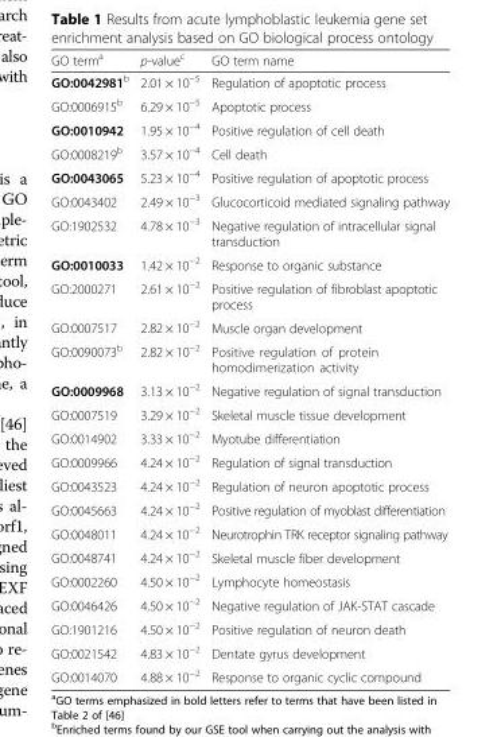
<table><thead><tr><td>GO term<sup>a</sup></td><td>p-value<sup>c</sup></td><td>GO term name</td></tr></thead><tbody><tr><td>GO:0042981<sup>b</sup></td><td>2.01 × 10<sup>−5</sup></td><td>Regulation of apoptotic process</td></tr><tr><td>GO:0006915<sup>b</sup></td><td>6.29 × 10<sup>−5</sup></td><td>Apoptotic process</td></tr><tr><td>GO:0010942</td><td>1.95 × 10<sup>−4</sup></td><td>Positive regulation of cell death</td></tr><tr><td>GO:0008219<sup>b</sup></td><td>3.57 × 10<sup>−4</sup></td><td>Cell death</td></tr><tr><td>GO:0043065</td><td>5.23 × 10<sup>−4</sup></td><td>Positive regulation of apoptotic process</td></tr><tr><td>GO:0043402</td><td>2.49 × 10<sup>−3</sup></td><td>Glucocorticoid mediated signaling pathway</td></tr><tr><td>GO:1902532</td><td>4.78 × 10<sup>−3</sup></td><td>Negative regulation of intracellular signal transduction</td></tr><tr><td>GO:0010033</td><td>1.42 × 10<sup>−2</sup></td><td>Response to organic substance</td></tr><tr><td>GO:2000271</td><td>2.61 × 10<sup>−2</sup></td><td>Positive regulation of fibroblast apoptotic process</td></tr><tr><td>GO:0007517</td><td>2.82 × 10<sup>−2</sup></td><td>Muscle organ development</td></tr><tr><td>GO:0090073<sup>b</sup></td><td>2.82 × 10<sup>−2</sup></td><td>Positive regulation of protein homodimerization activity</td></tr><tr><td>GO:0009968</td><td>3.13 × 10<sup>−2</sup></td><td>Negative regulation of signal transduction</td></tr><tr><td>GO:0007519</td><td>3.29 × 10<sup>−2</sup></td><td>Skeletal muscle tissue development</td></tr><tr><td>GO:0014902</td><td>3.33 × 10<sup>−2</sup></td><td>Myotube differentiation</td></tr><tr><td>GO:0009966</td><td>4.24 × 10<sup>−2</sup></td><td>Regulation of signal transduction</td></tr><tr><td>GO:0043523</td><td>4.24 × 10<sup>−2</sup></td><td>Regulation of neuron apoptotic process</td></tr><tr><td>GO:0045663</td><td>4.24 × 10<sup>−2</sup></td><td>Positive regulation of myoblast differentiation</td></tr><tr><td>GO:0048011</td><td>4.24 × 10<sup>−2</sup></td><td>Neurotrophin TRK receptor signaling pathway</td></tr><tr><td>GO:0048741</td><td>4.24 × 10<sup>−2</sup></td><td>Skeletal muscle fiber development</td></tr><tr><td>GO:0002260</td><td>4.50 × 10<sup>−2</sup></td><td>Lymphocyte homeostasis</td></tr><tr><td>GO:0046426</td><td>4.50 × 10<sup>−2</sup></td><td>Negative regulation of JAK-STAT cascade</td></tr><tr><td>GO:1901216</td><td>4.50 × 10<sup>−2</sup></td><td>Positive regulation of neuron death</td></tr><tr><td>GO:0021542</td><td>4.83 × 10<sup>−2</sup></td><td>Dentate gyrus development</td></tr><tr><td>GO:0014070</td><td>4.88 × 10<sup>−2</sup></td><td>Response to organic cyclic compound</td></tr></tbody></table>